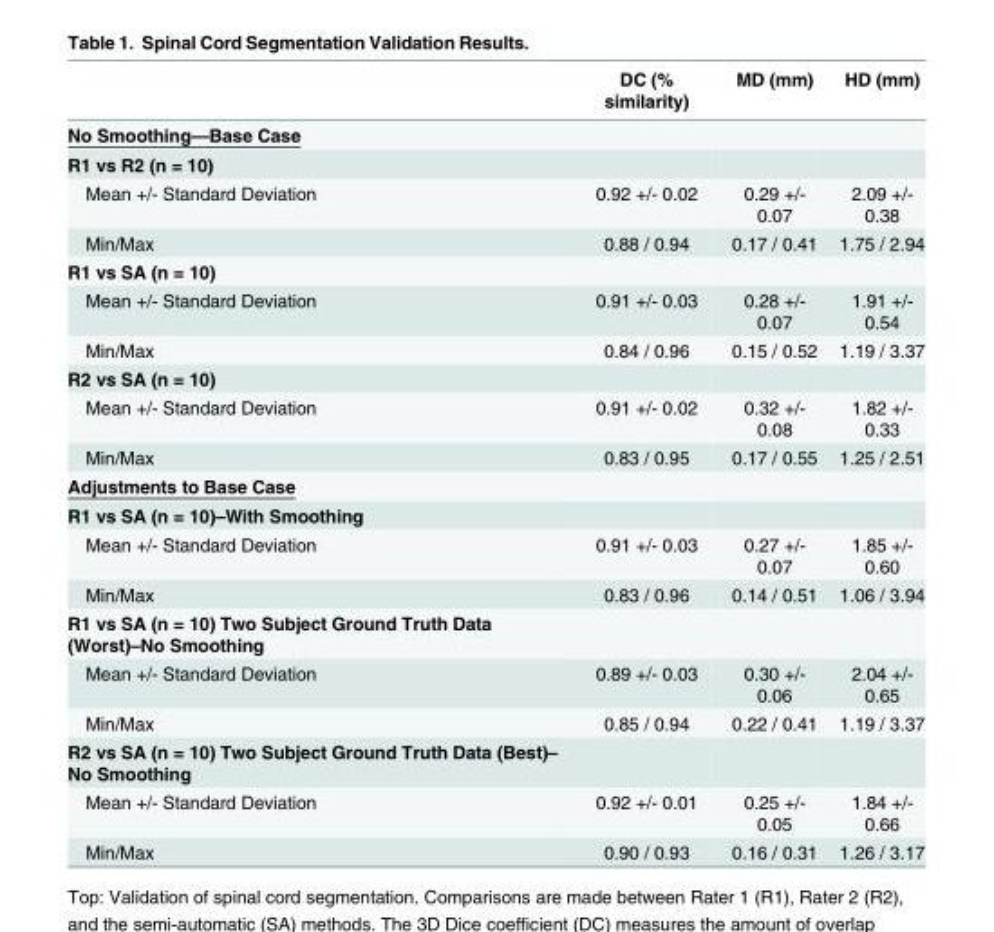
<table><thead><tr><td></td><td>DC (% similarity)</td><td>MD (mm)</td><td>HD (mm)</td></tr></thead><tbody><tr><td colspan="4">No Smoothing—Base Case</td></tr><tr><td colspan="4">R1 vs R2 (n = 10)</td></tr><tr><td>Mean +/- Standard Deviation</td><td>0.92 +/- 0.02</td><td>0.29 +/- 0.07</td><td>2.09 +/- 0.38</td></tr><tr><td>Min/Max</td><td>0.88 / 0.94</td><td>0.17 / 0.41</td><td>1.75 / 2.94</td></tr><tr><td colspan="4">R1 vs SA (n = 10)</td></tr><tr><td>Mean +/- Standard Deviation</td><td>0.91 +/- 0.03</td><td>0.28 +/- 0.07</td><td>1.91 +/- 0.54</td></tr><tr><td>Min/Max</td><td>0.84 / 0.96</td><td>0.15 / 0.52</td><td>1.19 / 3.37</td></tr><tr><td colspan="4">R2 vs SA (n = 10)</td></tr><tr><td>Mean +/- Standard Deviation</td><td>0.91 +/- 0.02</td><td>0.32 +/- 0.08</td><td>1.82 +/- 0.33</td></tr><tr><td>Min/Max</td><td>0.83 / 0.95</td><td>0.17 / 0.55</td><td>1.25 / 2.51</td></tr><tr><td colspan="4">Adjustments to Base Case</td></tr><tr><td colspan="4">R1 vs SA (n = 10)–With Smoothing</td></tr><tr><td>Mean +/- Standard Deviation</td><td>0.91 +/- 0.03</td><td>0.27 +/- 0.07</td><td>1.85 +/- 0.60</td></tr><tr><td>Min/Max</td><td>0.83 / 0.96</td><td>0.14 / 0.51</td><td>1.06 / 3.94</td></tr><tr><td colspan="4">R1 vs SA (n = 10) Two Subject Ground Truth Data (Worst)–No Smoothing</td></tr><tr><td>Mean +/- Standard Deviation</td><td>0.89 +/- 0.03</td><td>0.30 +/- 0.06</td><td>2.04 +/- 0.65</td></tr><tr><td>Min/Max</td><td>0.85 / 0.94</td><td>0.22 / 0.41</td><td>1.19 / 3.37</td></tr><tr><td colspan="4">R2 vs SA (n = 10) Two Subject Ground Truth Data (Best)– No Smoothing</td></tr><tr><td>Mean +/- Standard Deviation</td><td>0.92 +/- 0.01</td><td>0.25 +/- 0.05</td><td>1.84 +/- 0.66</td></tr><tr><td>Min/Max</td><td>0.90 / 0.93</td><td>0.16 / 0.31</td><td>1.26 / 3.17</td></tr></tbody></table>